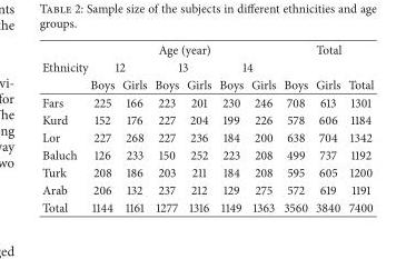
<table><thead><tr><td rowspan="3">Ethnicity</td><td colspan="6">Age (year)</td><td colspan="3">Total</td></tr><tr><td colspan="2">12</td><td colspan="2">13</td><td colspan="2">14</td><td rowspan="2">Boys</td><td rowspan="2">Girls</td><td rowspan="2">Total</td></tr><tr><td>Boys</td><td>Girls</td><td>Boys</td><td>Girls</td><td>Boys</td><td>Girls</td></tr></thead><tbody><tr><td>Fars</td><td>225</td><td>166</td><td>223</td><td>201</td><td>230</td><td>246</td><td>708</td><td>613</td><td>1301</td></tr><tr><td>Kurd</td><td>152</td><td>176</td><td>227</td><td>204</td><td>199</td><td>226</td><td>578</td><td>606</td><td>1184</td></tr><tr><td>Lor</td><td>227</td><td>268</td><td>227</td><td>236</td><td>184</td><td>200</td><td>638</td><td>704</td><td>1342</td></tr><tr><td>Baluch</td><td>126</td><td>233</td><td>150</td><td>252</td><td>223</td><td>208</td><td>499</td><td>737</td><td>1192</td></tr><tr><td>Turk</td><td>208</td><td>186</td><td>203</td><td>211</td><td>184</td><td>208</td><td>595</td><td>605</td><td>1200</td></tr><tr><td>Arab</td><td>206</td><td>132</td><td>237</td><td>212</td><td>129</td><td>275</td><td>572</td><td>619</td><td>1191</td></tr><tr><td>Total</td><td>1144</td><td>1161</td><td>1277</td><td>1316</td><td>1149</td><td>1363</td><td>3560</td><td>3840</td><td>7400</td></tr></tbody></table>